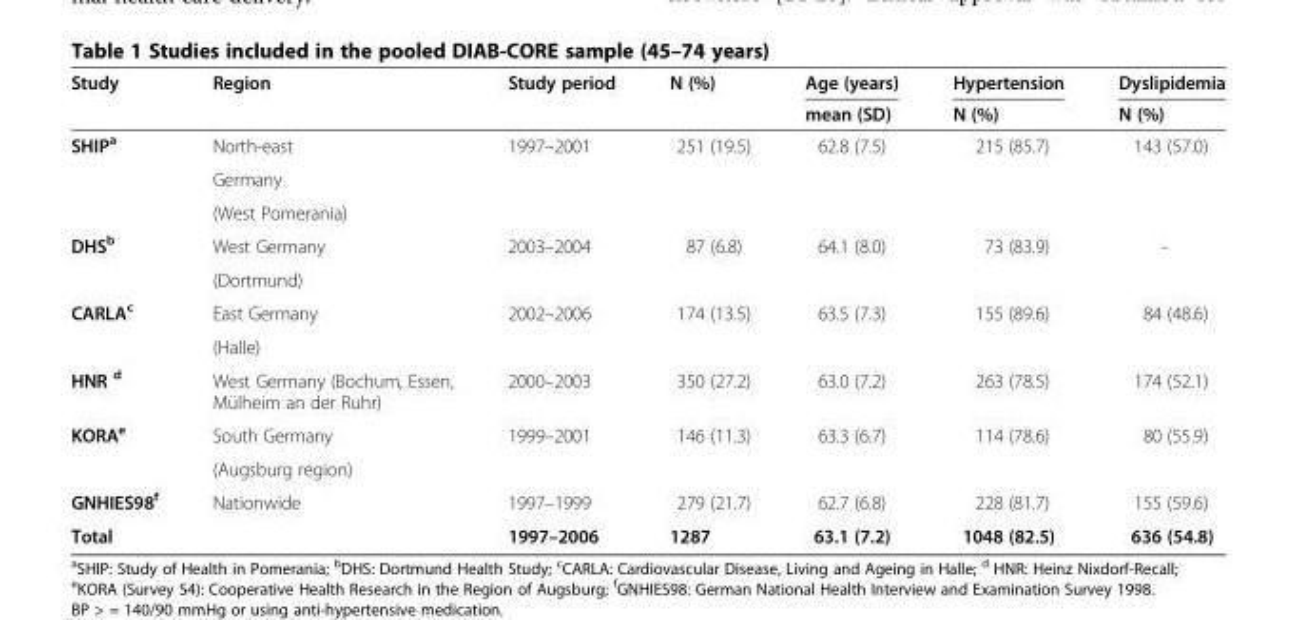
<table><thead><tr><td rowspan="2">Study</td><td rowspan="2">Region</td><td rowspan="2">Study period</td><td rowspan="2">N (%)</td><td rowspan="2">Age (years) mean (SD)</td><td rowspan="2">Hypertension N (%)</td><td rowspan="2">Dyslipidemia N (%)</td></tr><tr></tr></thead><tbody><tr><td rowspan="3">SHIP<sup>a</sup></td><td>North-east</td><td>1997–2001</td><td>251 (19.5)</td><td>62.8 (7.5)</td><td>215 (85.7)</td><td>143 (57.0)</td></tr><tr><td>Germany</td><td></td><td></td><td></td><td></td><td></td></tr><tr><td>(West Pomerania)</td><td></td><td></td><td></td><td></td><td></td></tr><tr><td rowspan="2">DHS<sup>b</sup></td><td>West Germany</td><td>2003–2004</td><td>87 (6.8)</td><td>64.1 (8.0)</td><td>73 (83.9)</td><td>-</td></tr><tr><td>(Dortmund)</td><td></td><td></td><td></td><td></td><td></td></tr><tr><td rowspan="2">CARLA<sup>c</sup></td><td>East Germany</td><td>2002–2006</td><td>174 (13.5)</td><td>63.5 (7.3)</td><td>155 (89.6)</td><td>84 (48.6)</td></tr><tr><td>(Halle)</td><td></td><td></td><td></td><td></td><td></td></tr><tr><td>HNR <sup>d</sup></td><td>West Germany (Bochum, Essen, Mülheim an der Ruhr)</td><td>2000–2003</td><td>350 (27.2)</td><td>63.0 (7.2)</td><td>263 (78.5)</td><td>174 (52.1)</td></tr><tr><td rowspan="2">KORA<sup>e</sup></td><td>South Germany</td><td>1999–2001</td><td>146 (11.3)</td><td>63.3 (6.7)</td><td>114 (78.6)</td><td>80 (55.9)</td></tr><tr><td>(Augsburg region)</td><td></td><td></td><td></td><td></td><td></td></tr><tr><td>GNHIES98<sup>f</sup></td><td>Nationwide</td><td>1997–1999</td><td>279 (21.7)</td><td>62.7 (6.8)</td><td>228 (81.7)</td><td>155 (59.6)</td></tr><tr><td>Total</td><td></td><td>1997–2006</td><td>1287</td><td>63.1 (7.2)</td><td>1048 (82.5)</td><td>636 (54.8)</td></tr></tbody></table>